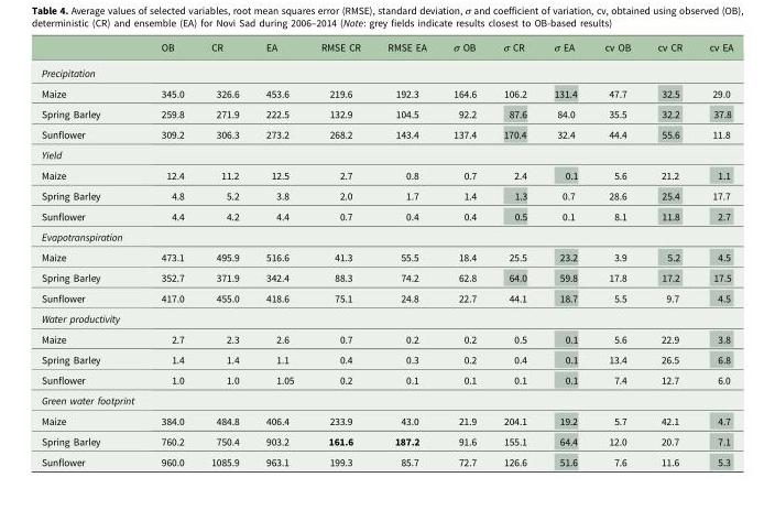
<table><thead><tr><td></td><td>OB</td><td>CR</td><td>EA</td><td>RMSE CR</td><td>RMSE EA</td><td>σ OB</td><td>σ CR</td><td>σ EA</td><td>cv OB</td><td>cv CR</td><td>cv EA</td></tr></thead><tbody><tr><td colspan="12">Precipitation</td></tr><tr><td>Maize</td><td>345.0</td><td>326.6</td><td>453.6</td><td>219.6</td><td>192.3</td><td>164.6</td><td>106.2</td><td>131.4</td><td>47.7</td><td>32.5</td><td>29.0</td></tr><tr><td>Spring Barley</td><td>259.8</td><td>271.9</td><td>222.5</td><td>132.9</td><td>104.5</td><td>92.2</td><td>87.6</td><td>84.0</td><td>35.5</td><td>32.2</td><td>37.8</td></tr><tr><td>Sunflower</td><td>309.2</td><td>306.3</td><td>273.2</td><td>268.2</td><td>143.4</td><td>137.4</td><td>170.4</td><td>32.4</td><td>44.4</td><td>55.6</td><td>11.8</td></tr><tr><td colspan="12">Yield</td></tr><tr><td>Maize</td><td>12.4</td><td>11.2</td><td>12.5</td><td>2.7</td><td>0.8</td><td>0.7</td><td>2.4</td><td>0.1</td><td>5.6</td><td>21.2</td><td>1.1</td></tr><tr><td>Spring Barley</td><td>4.8</td><td>5.2</td><td>3.8</td><td>2.0</td><td>1.7</td><td>1.4</td><td>1.3</td><td>0.7</td><td>28.6</td><td>25.4</td><td>17.7</td></tr><tr><td>Sunflower</td><td>4.4</td><td>4.2</td><td>4.4</td><td>0.7</td><td>0.4</td><td>0.4</td><td>0.5</td><td>0.1</td><td>8.1</td><td>11.8</td><td>2.7</td></tr><tr><td colspan="12">Evapotranspiration</td></tr><tr><td>Maize</td><td>473.1</td><td>495.9</td><td>516.6</td><td>41.3</td><td>55.5</td><td>18.4</td><td>25.5</td><td>23.2</td><td>3.9</td><td>5.2</td><td>4.5</td></tr><tr><td>Spring Barley</td><td>352.7</td><td>371.9</td><td>342.4</td><td>88.3</td><td>74.2</td><td>62.8</td><td>64.0</td><td>59.8</td><td>17.8</td><td>17.2</td><td>17.5</td></tr><tr><td>Sunflower</td><td>417.0</td><td>455.0</td><td>418.6</td><td>75.1</td><td>24.8</td><td>22.7</td><td>44.1</td><td>18.7</td><td>5.5</td><td>9.7</td><td>4.5</td></tr><tr><td colspan="12">Water productivity</td></tr><tr><td>Maize</td><td>2.7</td><td>2.3</td><td>2.6</td><td>0.7</td><td>0.2</td><td>0.2</td><td>0.5</td><td>0.1</td><td>5.6</td><td>22.9</td><td>3.8</td></tr><tr><td>Spring Barley</td><td>1.4</td><td>1.4</td><td>1.1</td><td>0.4</td><td>0.3</td><td>0.2</td><td>0.4</td><td>0.1</td><td>13.4</td><td>26.5</td><td>6.8</td></tr><tr><td>Sunflower</td><td>1.0</td><td>1.0</td><td>1.05</td><td>0.2</td><td>0.1</td><td>0.1</td><td>0.1</td><td>0.1</td><td>7.4</td><td>12.7</td><td>6.0</td></tr><tr><td colspan="12">Green water footprint</td></tr><tr><td>Maize</td><td>384.0</td><td>484.8</td><td>406.4</td><td>233.9</td><td>43.0</td><td>21.9</td><td>204.1</td><td>19.2</td><td>5.7</td><td>42.1</td><td>4.7</td></tr><tr><td>Spring Barley</td><td>760.2</td><td>750.4</td><td>903.2</td><td>161.6</td><td>187.2</td><td>91.6</td><td>155.1</td><td>64.4</td><td>12.0</td><td>20.7</td><td>7.1</td></tr><tr><td>Sunflower</td><td>960.0</td><td>1085.9</td><td>963.1</td><td>199.3</td><td>85.7</td><td>72.7</td><td>126.6</td><td>51.6</td><td>7.6</td><td>11.6</td><td>5.3</td></tr></tbody></table>